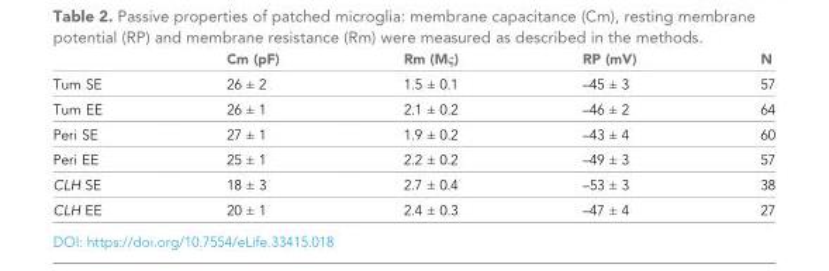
<table><thead><tr><td></td><td>Cm (pF)</td><td>Rm (MΩ)</td><td>RP (mV)</td><td>N</td></tr></thead><tbody><tr><td>Tum SE</td><td>26 ± 2</td><td>1.5 ± 0.1</td><td>–45 ± 3</td><td>57</td></tr><tr><td>Tum EE</td><td>26 ± 1</td><td>2.1 ± 0.2</td><td>–46 ± 2</td><td>64</td></tr><tr><td>Peri SE</td><td>27 ± 1</td><td>1.9 ± 0.2</td><td>–43 ± 4</td><td>60</td></tr><tr><td>Peri EE</td><td>25 ± 1</td><td>2.2 ± 0.2</td><td>–49 ± 3</td><td>57</td></tr><tr><td>CLH SE</td><td>18 ± 3</td><td>2.7 ± 0.4</td><td>–53 ± 3</td><td>38</td></tr><tr><td>CLH EE</td><td>20 ± 1</td><td>2.4 ± 0.3</td><td>–47 ± 4</td><td>27</td></tr></tbody></table>